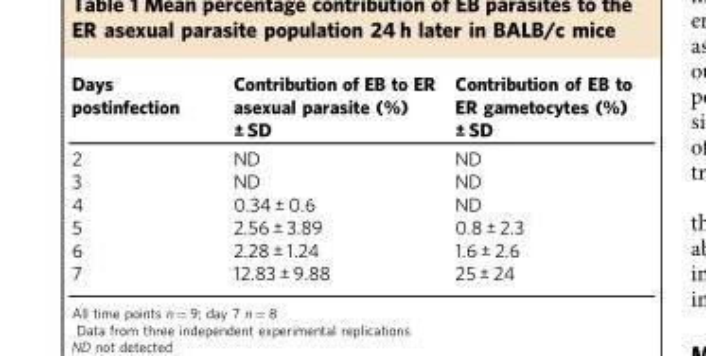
<table><thead><tr><td>Days postinfection</td><td>Contribution of EB to ER asexual parasite (%) ± SD</td><td>Contribution of EB to ER gametocytes (%) ± SD</td></tr></thead><tbody><tr><td>2</td><td>ND</td><td>ND</td></tr><tr><td>3</td><td>ND</td><td>ND</td></tr><tr><td>4</td><td>0.34 ± 0.6</td><td>ND</td></tr><tr><td>5</td><td>2.56 ± 3.89</td><td>0.8 ± 2.3</td></tr><tr><td>6</td><td>2.28 ± 1.24</td><td>1.6 ± 2.6</td></tr><tr><td>7</td><td>12.83 ± 9.88</td><td>25 ± 24</td></tr></tbody></table>